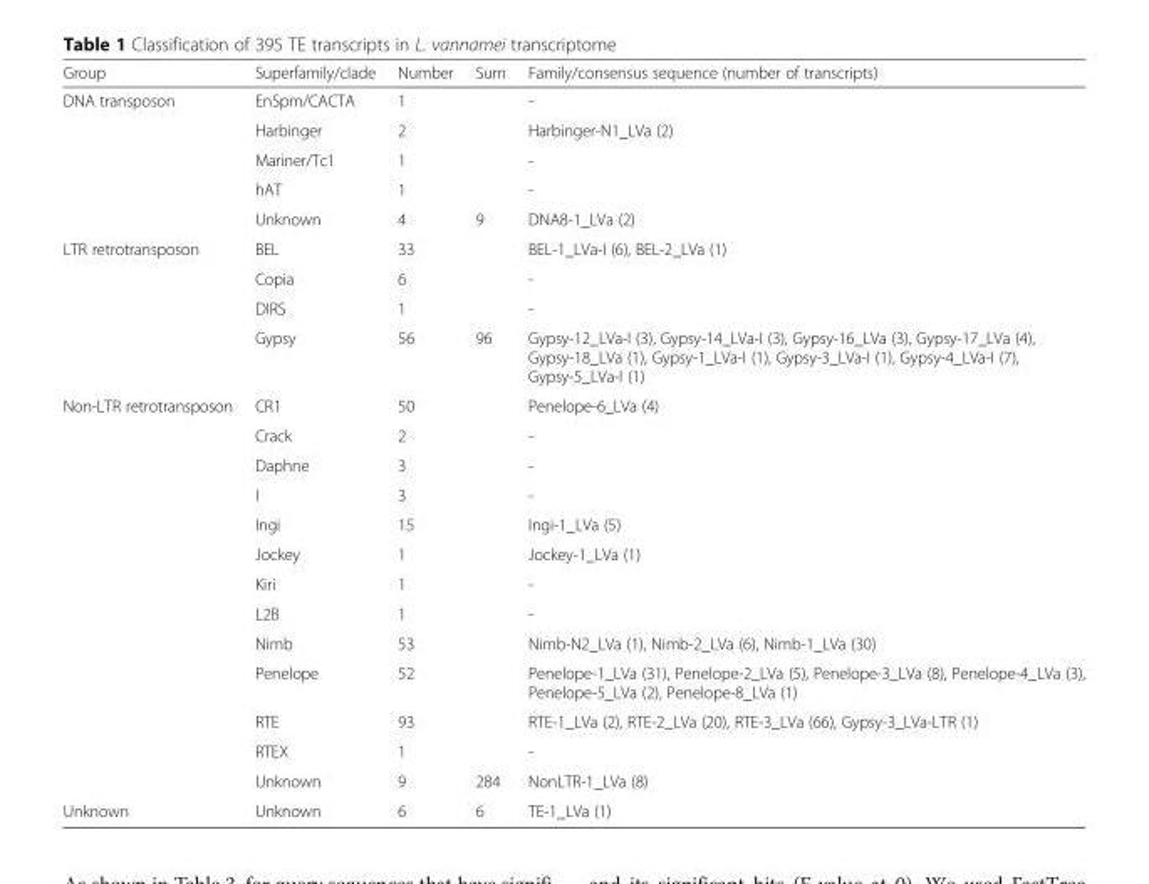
<table><thead><tr><td>Group</td><td>Superfamily/clade</td><td>Number</td><td>Sum</td><td>Family/consensus sequence (number of transcripts)</td></tr></thead><tbody><tr><td rowspan="5">DNA transposon</td><td>EnSpm/CACTA</td><td>1</td><td></td><td>-</td></tr><tr><td>Harbinger</td><td>2</td><td></td><td>Harbinger-N1_LVa (2)</td></tr><tr><td>Mariner/Tc1</td><td>1</td><td></td><td>-</td></tr><tr><td>hAT</td><td>1</td><td></td><td>-</td></tr><tr><td>Unknown</td><td>4</td><td>9</td><td>DNA8-1_LVa (2)</td></tr><tr><td rowspan="4">LTR retrotransposon</td><td>BEL</td><td>33</td><td></td><td>BEL-1_LVa-I (6), BEL-2_LVa (1)</td></tr><tr><td>Copia</td><td>6</td><td></td><td>-</td></tr><tr><td>DIRS</td><td>1</td><td></td><td>-</td></tr><tr><td>Gypsy</td><td>56</td><td>96</td><td>Gypsy-12_LVa-I (3), Gypsy-14_LVa-I (3), Gypsy-16_LVa (3), Gypsy-17_LVa (4), Gypsy-18_LVa (1), Gypsy-1_LVa-I (1), Gypsy-3_LVa-I (1), Gypsy-4_LVa-I (7), Gypsy-5_LVa-I (1)</td></tr><tr><td rowspan="13">Non-LTR retrotransposon</td><td>CR1</td><td>50</td><td></td><td>Penelope-6_LVa (4)</td></tr><tr><td>Crack</td><td>2</td><td></td><td>-</td></tr><tr><td>Daphne</td><td>3</td><td></td><td>-</td></tr><tr><td>I</td><td>3</td><td></td><td>-</td></tr><tr><td>Ingi</td><td>15</td><td></td><td>Ingi-1_LVa (5)</td></tr><tr><td>Jockey</td><td>1</td><td></td><td>Jockey-1_LVa (1)</td></tr><tr><td>Kiri</td><td>1</td><td></td><td>-</td></tr><tr><td>L2B</td><td>1</td><td></td><td>-</td></tr><tr><td>Nimb</td><td>53</td><td></td><td>Nimb-N2_LVa (1), Nimb-2_LVa (6), Nimb-1_LVa (30)</td></tr><tr><td>Penelope</td><td>52</td><td></td><td>Penelope-1_LVa (31), Penelope-2_LVa (5), Penelope-3_LVa (8), Penelope-4_LVa (3), Penelope-5_LVa (2), Penelope-8_LVa (1)</td></tr><tr><td>RTE</td><td>93</td><td></td><td>RTE-1_LVa (2), RTE-2_LVa (20), RTE-3_LVa (66), Gypsy-3_LVa-LTR (1)</td></tr><tr><td>RTEX</td><td>1</td><td></td><td>-</td></tr><tr><td>Unknown</td><td>9</td><td>284</td><td>NonLTR-1_LVa (8)</td></tr><tr><td>Unknown</td><td>Unknown</td><td>6</td><td>6</td><td>TE-1_LVa (1)</td></tr></tbody></table>